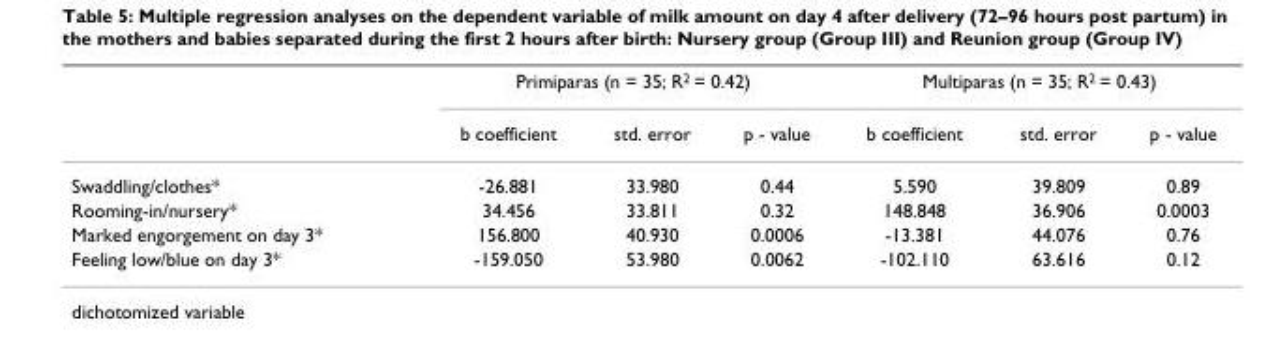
<table><thead><tr><td rowspan="2"></td><td colspan="3">Primiparas (n = 35; R<sup>2</sup> = 0.42)</td><td colspan="3">Multiparas (n = 35; R<sup>2</sup> = 0.43)</td></tr><tr><td>b coefficient</td><td>std. error</td><td>p - value</td><td>b coefficient</td><td>std. error</td><td>p - value</td></tr></thead><tbody><tr><td>Swaddling/clothes*</td><td>-26.881</td><td>33.980</td><td>0.44</td><td>5.590</td><td>39.809</td><td>0.89</td></tr><tr><td>Rooming-in/nursery*</td><td>34.456</td><td>33.811</td><td>0.32</td><td>148.848</td><td>36.906</td><td>0.0003</td></tr><tr><td>Marked engorgement on day 3*</td><td>156.800</td><td>40.930</td><td>0.0006</td><td>-13.381</td><td>44.076</td><td>0.76</td></tr><tr><td>Feeling low/blue on day 3*</td><td>-159.050</td><td>53.980</td><td>0.0062</td><td>-102.110</td><td>63.616</td><td>0.12</td></tr></tbody></table>